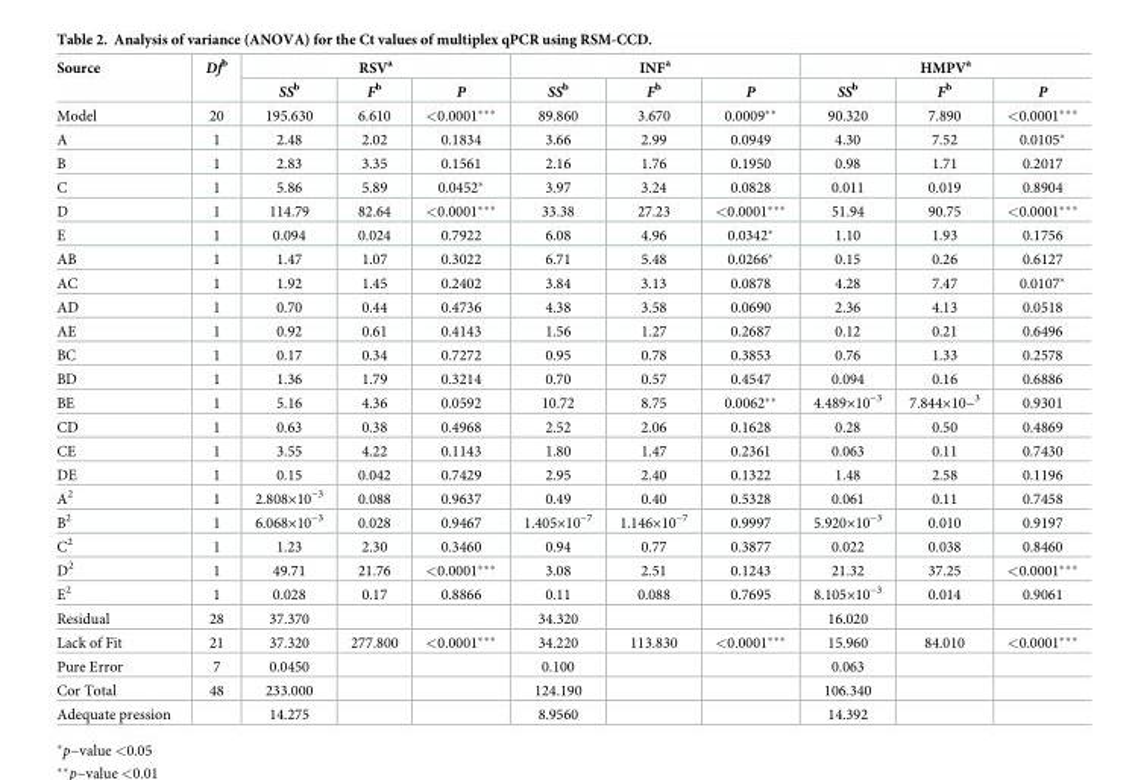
<table><thead><tr><td rowspan="2">Source</td><td rowspan="2">Df<sup>b</sup></td><td colspan="3">RSV<sup>a</sup></td><td colspan="3">INF<sup>a</sup></td><td colspan="3">HMPV<sup>a</sup></td></tr><tr><td>SS<sup>b</sup></td><td>F<sup>b</sup></td><td>P</td><td>SS<sup>b</sup></td><td>F<sup>b</sup></td><td>P</td><td>SS<sup>b</sup></td><td>F<sup>b</sup></td><td>P</td></tr></thead><tbody><tr><td>Model</td><td>20</td><td>195.630</td><td>6.610</td><td>&lt;0.0001***</td><td>89.860</td><td>3.670</td><td>0.0009**</td><td>90.320</td><td>7.890</td><td>&lt;0.0001***</td></tr><tr><td>A</td><td>1</td><td>2.48</td><td>2.02</td><td>0.1834</td><td>3.66</td><td>2.99</td><td>0.0949</td><td>4.30</td><td>7.52</td><td>0.0105*</td></tr><tr><td>B</td><td>1</td><td>2.83</td><td>3.35</td><td>0.1561</td><td>2.16</td><td>1.76</td><td>0.1950</td><td>0.98</td><td>1.71</td><td>0.2017</td></tr><tr><td>C</td><td>1</td><td>5.86</td><td>5.89</td><td>0.0452*</td><td>3.97</td><td>3.24</td><td>0.0828</td><td>0.011</td><td>0.019</td><td>0.8904</td></tr><tr><td>D</td><td>1</td><td>114.79</td><td>82.64</td><td>&lt;0.0001***</td><td>33.38</td><td>27.23</td><td>&lt;0.0001***</td><td>51.94</td><td>90.75</td><td>&lt;0.0001***</td></tr><tr><td>E</td><td>1</td><td>0.094</td><td>0.024</td><td>0.7922</td><td>6.08</td><td>4.96</td><td>0.0342*</td><td>1.10</td><td>1.93</td><td>0.1756</td></tr><tr><td>AB</td><td>1</td><td>1.47</td><td>1.07</td><td>0.3022</td><td>6.71</td><td>5.48</td><td>0.0266*</td><td>0.15</td><td>0.26</td><td>0.6127</td></tr><tr><td>AC</td><td>1</td><td>1.92</td><td>1.45</td><td>0.2402</td><td>3.84</td><td>3.13</td><td>0.0878</td><td>4.28</td><td>7.47</td><td>0.0107*</td></tr><tr><td>AD</td><td>1</td><td>0.70</td><td>0.44</td><td>0.4736</td><td>4.38</td><td>3.58</td><td>0.0690</td><td>2.36</td><td>4.13</td><td>0.0518</td></tr><tr><td>AE</td><td>1</td><td>0.92</td><td>0.61</td><td>0.4143</td><td>1.56</td><td>1.27</td><td>0.2687</td><td>0.12</td><td>0.21</td><td>0.6496</td></tr><tr><td>BC</td><td>1</td><td>0.17</td><td>0.34</td><td>0.7272</td><td>0.95</td><td>0.78</td><td>0.3853</td><td>0.76</td><td>1.33</td><td>0.2578</td></tr><tr><td>BD</td><td>1</td><td>1.36</td><td>1.79</td><td>0.3214</td><td>0.70</td><td>0.57</td><td>0.4547</td><td>0.094</td><td>0.16</td><td>0.6886</td></tr><tr><td>BE</td><td>1</td><td>5.16</td><td>4.36</td><td>0.0592</td><td>10.72</td><td>8.75</td><td>0.0062**</td><td>4.489×10<sup>−3</sup></td><td>7.844×10−<sup>3</sup></td><td>0.9301</td></tr><tr><td>CD</td><td>1</td><td>0.63</td><td>0.38</td><td>0.4968</td><td>2.52</td><td>2.06</td><td>0.1628</td><td>0.28</td><td>0.50</td><td>0.4869</td></tr><tr><td>CE</td><td>1</td><td>3.55</td><td>4.22</td><td>0.1143</td><td>1.80</td><td>1.47</td><td>0.2361</td><td>0.063</td><td>0.11</td><td>0.7430</td></tr><tr><td>DE</td><td>1</td><td>0.15</td><td>0.042</td><td>0.7429</td><td>2.95</td><td>2.40</td><td>0.1322</td><td>1.48</td><td>2.58</td><td>0.1196</td></tr><tr><td>A<sup>2</sup></td><td>1</td><td>2.808×10<sup>−3</sup></td><td>0.088</td><td>0.9637</td><td>0.49</td><td>0.40</td><td>0.5328</td><td>0.061</td><td>0.11</td><td>0.7458</td></tr><tr><td>B<sup>2</sup></td><td>1</td><td>6.068×10<sup>−3</sup></td><td>0.028</td><td>0.9467</td><td>1.405×10<sup>−7</sup></td><td>1.146×10<sup>−7</sup></td><td>0.9997</td><td>5.920×10<sup>−3</sup></td><td>0.010</td><td>0.9197</td></tr><tr><td>C<sup>2</sup></td><td>1</td><td>1.23</td><td>2.30</td><td>0.3460</td><td>0.94</td><td>0.77</td><td>0.3877</td><td>0.022</td><td>0.038</td><td>0.8460</td></tr><tr><td>D<sup>2</sup></td><td>1</td><td>49.71</td><td>21.76</td><td>&lt;0.0001***</td><td>3.08</td><td>2.51</td><td>0.1243</td><td>21.32</td><td>37.25</td><td>&lt;0.0001***</td></tr><tr><td>E<sup>2</sup></td><td>1</td><td>0.028</td><td>0.17</td><td>0.8866</td><td>0.11</td><td>0.088</td><td>0.7695</td><td>8.105×10<sup>−3</sup></td><td>0.014</td><td>0.9061</td></tr><tr><td>Residual</td><td>28</td><td>37.370</td><td></td><td></td><td>34.320</td><td></td><td></td><td>16.020</td><td></td><td></td></tr><tr><td>Lack of Fit</td><td>21</td><td>37.320</td><td>277.800</td><td>&lt;0.0001***</td><td>34.220</td><td>113.830</td><td>&lt;0.0001***</td><td>15.960</td><td>84.010</td><td>&lt;0.0001***</td></tr><tr><td>Pure Error</td><td>7</td><td>0.0450</td><td></td><td></td><td>0.100</td><td></td><td></td><td>0.063</td><td></td><td></td></tr><tr><td>Cor Total</td><td>48</td><td>233.000</td><td></td><td></td><td>124.190</td><td></td><td></td><td>106.340</td><td></td><td></td></tr><tr><td>Adequate pression</td><td></td><td>14.275</td><td></td><td></td><td>8.9560</td><td></td><td></td><td>14.392</td><td></td><td></td></tr></tbody></table>